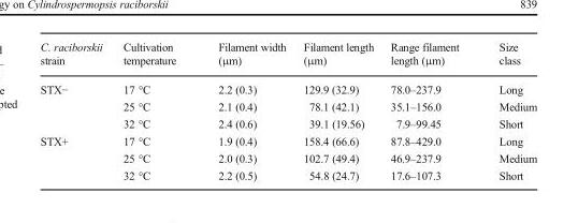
<table><thead><tr><td>C. raciborskii strain</td><td>Cultivation temperature</td><td>Filament width (μm)</td><td>Filament length (μm)</td><td>Range filament length (μm)</td><td>Size class</td></tr></thead><tbody><tr><td rowspan="3">STX−</td><td>17 °C</td><td>2.2 (0.3)</td><td>129.9 (32.9)</td><td>78.0–237.9</td><td>Long</td></tr><tr><td>25 °C</td><td>2.1 (0.4)</td><td>78.1 (42.1)</td><td>35.1–156.0</td><td>Medium</td></tr><tr><td>32 °C</td><td>2.4 (0.6)</td><td>39.1 (19.56)</td><td>7.9–99.45</td><td>Short</td></tr><tr><td rowspan="3">STX+</td><td>17 °C</td><td>1.9 (0.4)</td><td>158.4 (66.6)</td><td>87.8–429.0</td><td>Long</td></tr><tr><td>25 °C</td><td>2.0 (0.3)</td><td>102.7 (49.4)</td><td>46.9–237.9</td><td>Medium</td></tr><tr><td>32 °C</td><td>2.2 (0.5)</td><td>54.8 (24.7)</td><td>17.6–107.3</td><td>Short</td></tr></tbody></table>